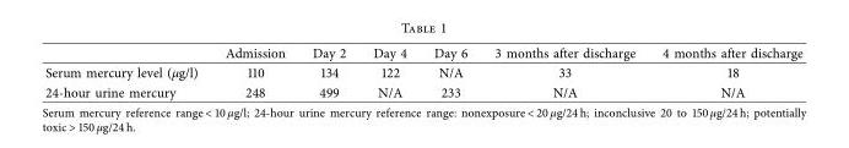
<table><thead><tr><td></td><td>Admission</td><td>Day 2</td><td>Day 4</td><td>Day 6</td><td>3 months after discharge</td><td>4 months after discharge</td></tr></thead><tbody><tr><td>Serum mercury level (µg/l)</td><td>110</td><td>134</td><td>122</td><td>N/A</td><td>33</td><td>18</td></tr><tr><td>24-hour urine mercury</td><td>248</td><td>499</td><td>N/A</td><td>233</td><td>N/A</td><td>N/A</td></tr></tbody></table>